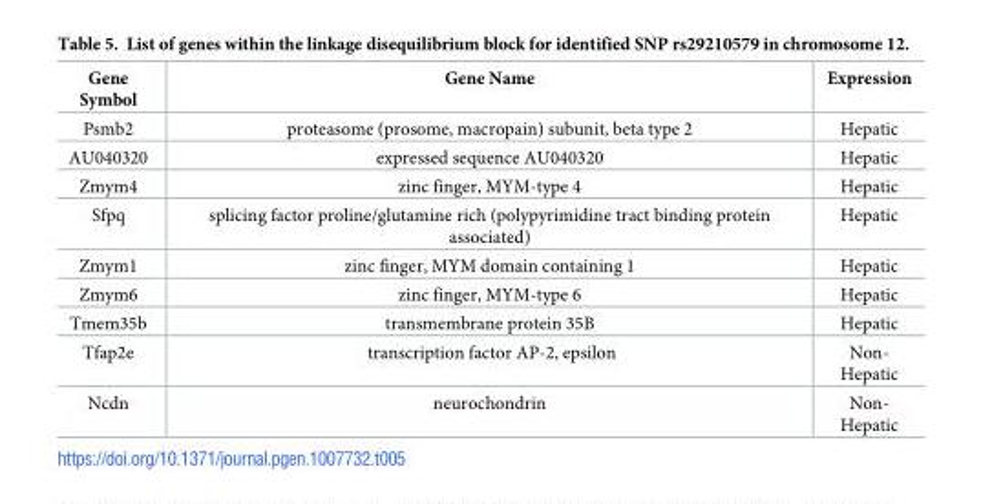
<table><thead><tr><td>Gene Symbol</td><td>Gene Name</td><td>Expression</td></tr></thead><tbody><tr><td>Psmb2</td><td>proteasome (prosome, macropain) subunit, beta type 2</td><td>Hepatic</td></tr><tr><td>AU040320</td><td>expressed sequence AU040320</td><td>Hepatic</td></tr><tr><td>Zmym4</td><td>zinc finger, MYM-type 4</td><td>Hepatic</td></tr><tr><td>Sfpq</td><td>splicing factor proline/glutamine rich (polypyrimidine tract binding protein associated)</td><td>Hepatic</td></tr><tr><td>Zmym1</td><td>zinc finger, MYM domain containing 1</td><td>Hepatic</td></tr><tr><td>Zmym6</td><td>zinc finger, MYM-type 6</td><td>Hepatic</td></tr><tr><td>Tmem35b</td><td>transmembrane protein 35B</td><td>Hepatic</td></tr><tr><td>Tfap2e</td><td>transcription factor AP-2, epsilon</td><td>Non- Hepatic</td></tr><tr><td>Ncdn</td><td>neurochondrin</td><td>Non- Hepatic</td></tr></tbody></table>